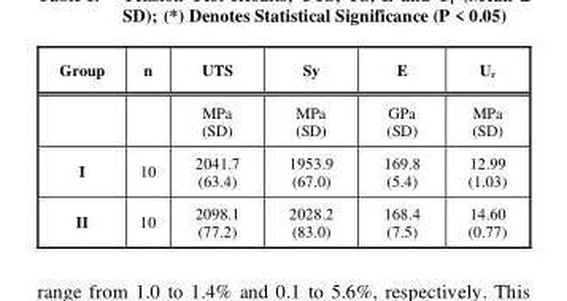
<table><thead><tr><td>Group</td><td>n</td><td>UTS</td><td>Sy</td><td>E</td><td>U<sub>r</sub></td></tr></thead><tbody><tr><td></td><td></td><td>MPa (SD)</td><td>MPa (SD)</td><td>GPa (SD)</td><td>MPa (SD)</td></tr><tr><td>I</td><td>10</td><td>2041.7 (63.4)</td><td>1953.9 (67.0)</td><td>169.8 (5.4)</td><td>12.99 (1.03)</td></tr><tr><td>II</td><td>10</td><td>2098.1 (77.2)</td><td>2028.2 (83.0)</td><td>168.4 (7.5)</td><td>14.60 (0.77)</td></tr></tbody></table>